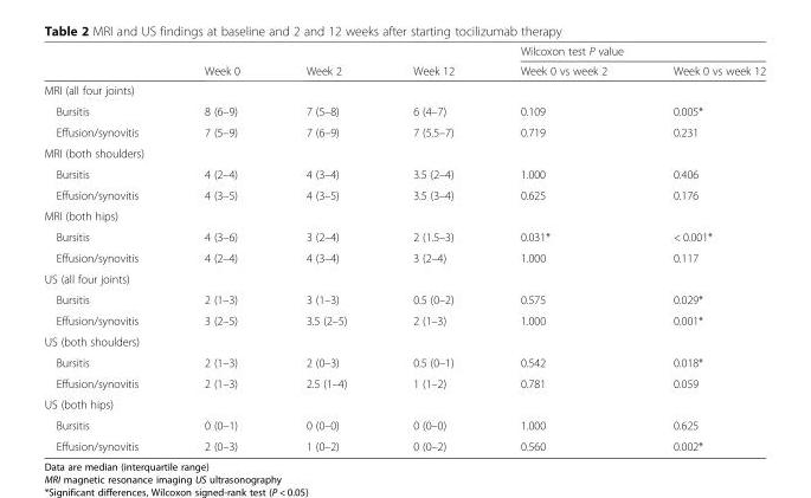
<table><thead><tr><td rowspan="2"></td><td rowspan="2">Week 0</td><td rowspan="2">Week 2</td><td rowspan="2">Week 12</td><td colspan="2">Wilcoxon test P value</td></tr><tr><td>Week 0 vs week 2</td><td>Week 0 vs week 12</td></tr></thead><tbody><tr><td colspan="6">MRI (all four joints)</td></tr><tr><td>Bursitis</td><td>8 (6–9)</td><td>7 (5–8)</td><td>6 (4–7)</td><td>0.109</td><td>0.005*</td></tr><tr><td>Effusion/synovitis</td><td>7 (5–9)</td><td>7 (6–9)</td><td>7 (5.5–7)</td><td>0.719</td><td>0.231</td></tr><tr><td colspan="6">MRI (both shoulders)</td></tr><tr><td>Bursitis</td><td>4 (2–4)</td><td>4 (3–4)</td><td>3.5 (2–4)</td><td>1.000</td><td>0.406</td></tr><tr><td>Effusion/synovitis</td><td>4 (3–5)</td><td>4 (3–5)</td><td>3.5 (3–4)</td><td>0.625</td><td>0.176</td></tr><tr><td colspan="6">MRI (both hips)</td></tr><tr><td>Bursitis</td><td>4 (3–6)</td><td>3 (2–4)</td><td>2 (1.5–3)</td><td>0.031*</td><td>&lt; 0.001*</td></tr><tr><td>Effusion/synovitis</td><td>4 (2–4)</td><td>4 (3–4)</td><td>3 (2–4)</td><td>1.000</td><td>0.117</td></tr><tr><td colspan="6">US (all four joints)</td></tr><tr><td>Bursitis</td><td>2 (1–3)</td><td>3 (1–3)</td><td>0.5 (0–2)</td><td>0.575</td><td>0.029*</td></tr><tr><td>Effusion/synovitis</td><td>3 (2–5)</td><td>3.5 (2–5)</td><td>2 (1–3)</td><td>1.000</td><td>0.001*</td></tr><tr><td colspan="6">US (both shoulders)</td></tr><tr><td>Bursitis</td><td>2 (1–3)</td><td>2 (0–3)</td><td>0.5 (0–1)</td><td>0.542</td><td>0.018*</td></tr><tr><td>Effusion/synovitis</td><td>2 (1–3)</td><td>2.5 (1–4)</td><td>1 (1–2)</td><td>0.781</td><td>0.059</td></tr><tr><td colspan="6">US (both hips)</td></tr><tr><td>Bursitis</td><td>0 (0–1)</td><td>0 (0–0)</td><td>0 (0–0)</td><td>1.000</td><td>0.625</td></tr><tr><td>Effusion/synovitis</td><td>2 (0–3)</td><td>1 (0–2)</td><td>0 (0–2)</td><td>0.560</td><td>0.002*</td></tr></tbody></table>